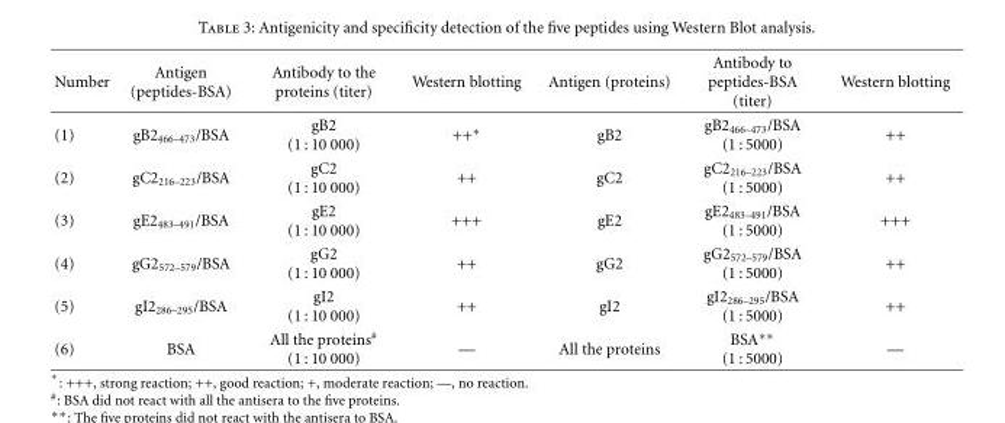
<table><thead><tr><td>Number</td><td>Antigen (peptides-BSA)</td><td>Antibody to the proteins (titer)</td><td>Western blotting</td><td>Antigen (proteins)</td><td>Antibody to peptides-BSA (titer)</td><td>Western blotting</td></tr></thead><tbody><tr><td>(1)</td><td>gB2<sub>466–473</sub>/BSA</td><td>gB2 (1 : 10 000)</td><td>++∗</td><td>gB2</td><td>gB2<sub>466–473</sub>/BSA (1 : 5000)</td><td>++</td></tr><tr><td>(2)</td><td>gC2<sub>216–223</sub>/BSA</td><td>gC2 (1 : 10 000)</td><td>++</td><td>gC2</td><td>gC2<sub>216–223</sub>/BSA (1 : 5000)</td><td>++</td></tr><tr><td>(3)</td><td>gE2<sub>483–491</sub>/BSA</td><td>gE2 (1 : 10 000)</td><td>+++</td><td>gE2</td><td>gE2<sub>483–491</sub>/BSA (1 : 5000)</td><td>+++</td></tr><tr><td>(4)</td><td>gG2<sub>572–579</sub>/BSA</td><td>gG2 (1 : 10 000)</td><td>++</td><td>gG2</td><td>gG2<sub>572–579</sub>/BSA (1 : 5000)</td><td>++</td></tr><tr><td>(5)</td><td>gI2<sub>286–295</sub>/BSA</td><td>gI2 (1 : 10 000)</td><td>++</td><td>gI2</td><td>gI2<sub>286–295</sub>/BSA (1 : 5000)</td><td>++</td></tr><tr><td>(6)</td><td>BSA</td><td>All the proteins<sup>#</sup> (1 : 10 000)</td><td>—</td><td>All the proteins</td><td>BSA∗∗ (1 : 5000)</td><td>—</td></tr></tbody></table>